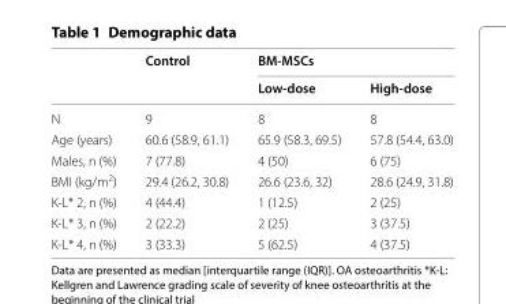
<table><thead><tr><td rowspan="2"></td><td rowspan="2">Control</td><td colspan="2">BM-MSCs</td></tr><tr><td>Low-dose</td><td>High-dose</td></tr></thead><tbody><tr><td>N</td><td>9</td><td>8</td><td>8</td></tr><tr><td>Age (years)</td><td>60.6 (58.9, 61.1)</td><td>65.9 (58.3, 69.5)</td><td>57.8 (54.4, 63.0)</td></tr><tr><td>Males, n (%)</td><td>7 (77.8)</td><td>4 (50)</td><td>6 (75)</td></tr><tr><td>BMI (kg/m<sup>2</sup>)</td><td>29.4 (26.2, 30.8)</td><td>26.6 (23.6, 32)</td><td>28.6 (24.9, 31.8)</td></tr><tr><td>K‑L* 2, n (%)</td><td>4 (44.4)</td><td>1 (12.5)</td><td>2 (25)</td></tr><tr><td>K‑L* 3, n (%)</td><td>2 (22.2)</td><td>2 (25)</td><td>3 (37.5)</td></tr><tr><td>K‑L* 4, n (%)</td><td>3 (33.3)</td><td>5 (62.5)</td><td>4 (37.5)</td></tr></tbody></table>